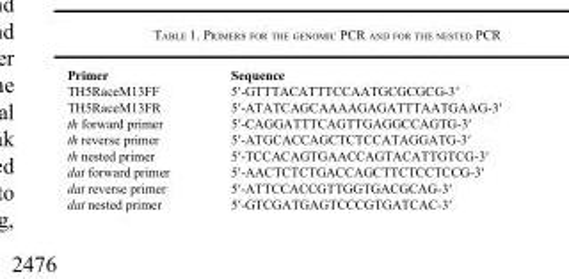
<table><thead><tr><td>Primer</td><td>Sequence</td></tr></thead><tbody><tr><td>TH5RaceM13FF</td><td>5′-GTTTACATTTCCAATGCGCGCG-3′</td></tr><tr><td>TH5RaceM13FR</td><td>5′-ATATCAGCAAAAGAGATTTAATGAAG-3′</td></tr><tr><td>th forward primer</td><td>5′-CAGGATTTCAGTTGAGGCCAGTG-3′</td></tr><tr><td>th reverse primer</td><td>5′-ATGCACCAGCTCTCCATAGGATG-3′</td></tr><tr><td>th nested primer</td><td>5′-TCCACAGTGAACCAGTACATTGTCG-3′</td></tr><tr><td>dat forward primer</td><td>5′-AACTCTCTGACCAGCTTCTCCTCCG-3′</td></tr><tr><td>dat reverse primer</td><td>5′-ATTCCACCGTTGGTGACGCAG-3′</td></tr><tr><td>dat nested primer</td><td>5′-GTCGATGAGTCCCGTGATCAC-3′</td></tr></tbody></table>